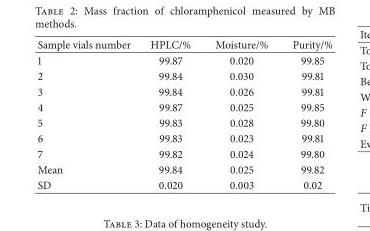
<table><thead><tr><td>Sample vials number</td><td>HPLC/%</td><td>Moisture/%</td><td>Purity/%</td></tr></thead><tbody><tr><td>1</td><td>99.87</td><td>0.020</td><td>99.85</td></tr><tr><td>2</td><td>99.84</td><td>0.030</td><td>99.81</td></tr><tr><td>3</td><td>99.84</td><td>0.026</td><td>99.81</td></tr><tr><td>4</td><td>99.87</td><td>0.025</td><td>99.85</td></tr><tr><td>5</td><td>99.83</td><td>0.028</td><td>99.80</td></tr><tr><td>6</td><td>99.83</td><td>0.023</td><td>99.81</td></tr><tr><td>7</td><td>99.82</td><td>0.024</td><td>99.80</td></tr><tr><td>Mean</td><td>99.84</td><td>0.025</td><td>99.82</td></tr><tr><td>SD</td><td>0.020</td><td>0.003</td><td>0.02</td></tr></tbody></table>